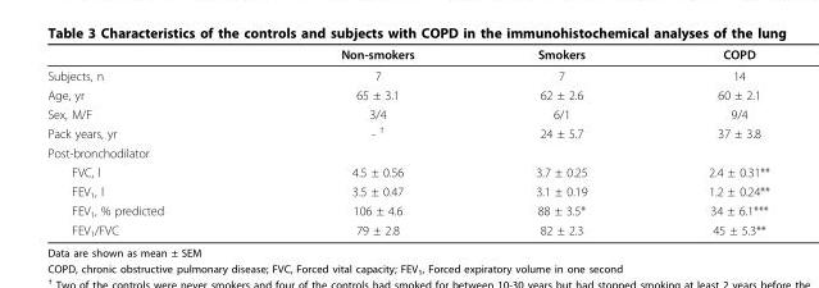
<table><thead><tr><td></td><td>Non-smokers</td><td>Smokers</td><td>COPD</td></tr></thead><tbody><tr><td>Subjects, n</td><td>7</td><td>7</td><td>14</td></tr><tr><td>Age, yr</td><td>65 ± 3.1</td><td>62 ± 2.6</td><td>60 ± 2.1</td></tr><tr><td>Sex, M/F</td><td>3/4</td><td>6/1</td><td>9/4</td></tr><tr><td>Pack years, yr</td><td>- <sup>†</sup></td><td>24 ± 5.7</td><td>37 ± 3.8</td></tr><tr><td colspan="4">Post-bronchodilator</td></tr><tr><td>FVC, l</td><td>4.5 ± 0.56</td><td>3.7 ± 0.25</td><td>2.4 ± 0.31**</td></tr><tr><td>FEV<sub>1</sub>, l</td><td>3.5 ± 0.47</td><td>3.1 ± 0.19</td><td>1.2 ± 0.24**</td></tr><tr><td>FEV<sub>1</sub>, % predicted</td><td>106 ± 4.6</td><td>88 ± 3.5*</td><td>34 ± 6.1***</td></tr><tr><td>FEV<sub>1</sub>/FVC</td><td>79 ± 2.8</td><td>82 ± 2.3</td><td>45 ± 5.3**</td></tr></tbody></table>